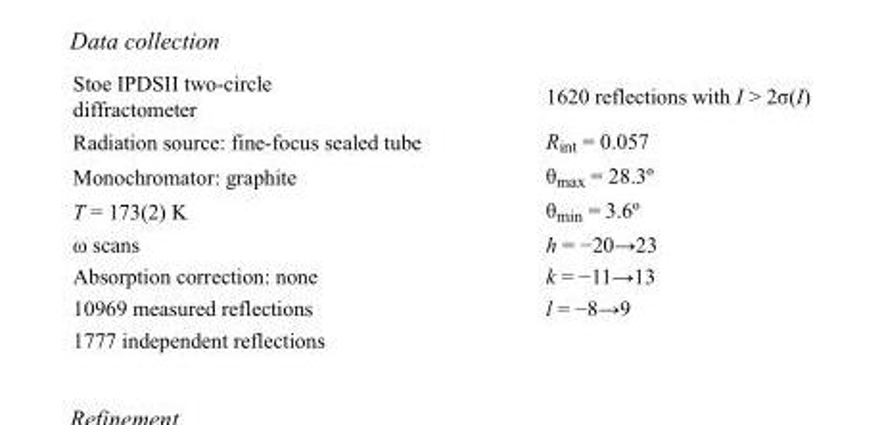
<table><tbody><tr><td>Stoe IPDSII two-circle diffractometer</td><td>1620 reflections with I &gt; 2σ(I)</td></tr><tr><td>Radiation source: fine-focus sealed tube</td><td>R<sub>int</sub> = 0.057</td></tr><tr><td>Monochromator: graphite</td><td>θ<sub>max</sub> = 28.3º</td></tr><tr><td>T = 173(2) K</td><td>θ<sub>min</sub> = 3.6º</td></tr><tr><td>ω scans</td><td>h = −20→23</td></tr><tr><td>Absorption correction: none</td><td>k = −11→13</td></tr><tr><td>10969 measured reflections</td><td>l = −8→9</td></tr><tr><td>1777 independent reflections</td><td></td></tr></tbody></table>